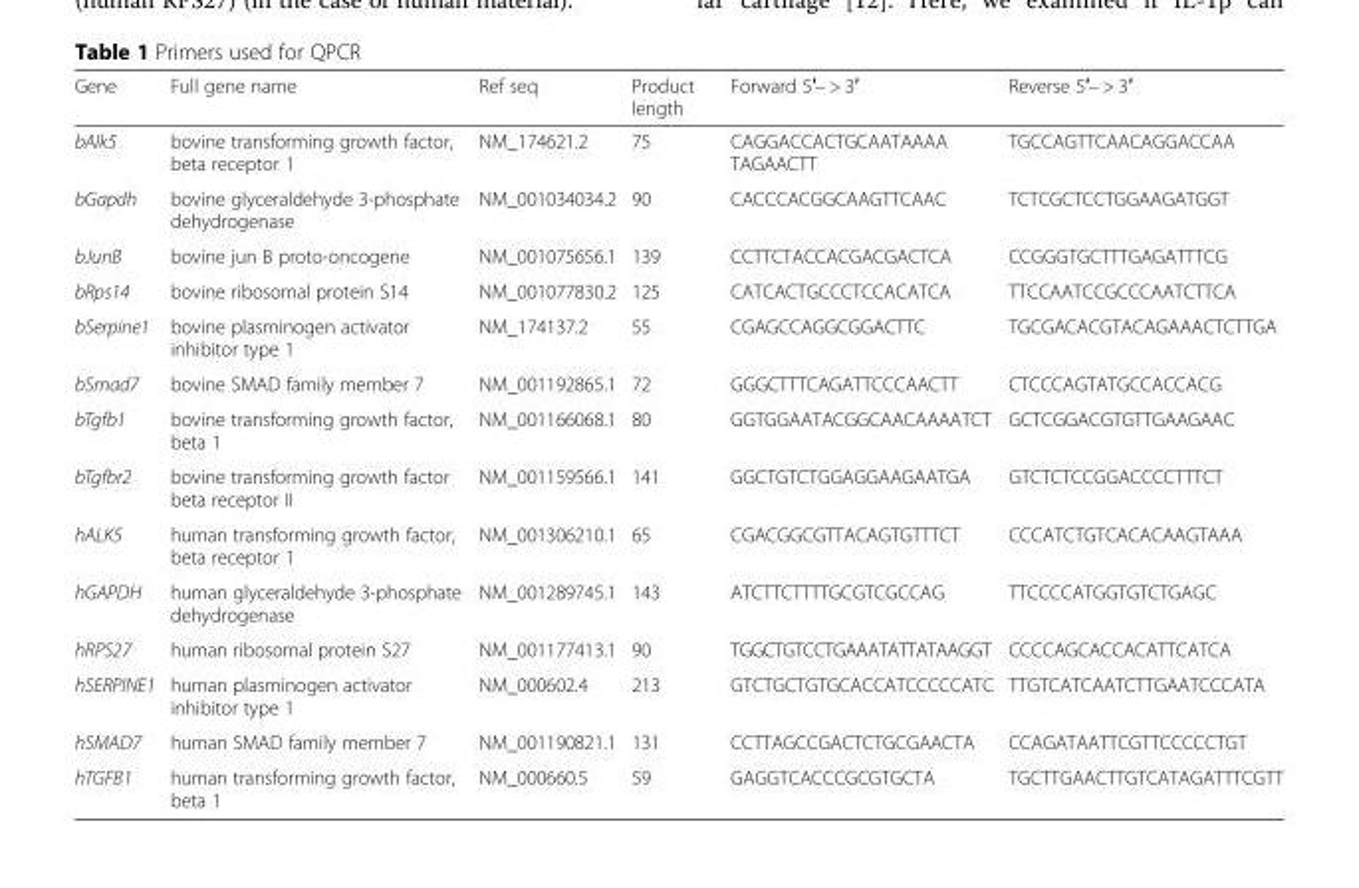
<table><thead><tr><td>Gene</td><td>Full gene name</td><td>Ref seq</td><td>Product length</td><td>Forward 5′– &gt; 3′</td><td>Reverse 5′– &gt; 3′</td></tr></thead><tbody><tr><td>bAlk5</td><td>bovine transforming growth factor, beta receptor 1</td><td>NM_174621.2</td><td>75</td><td>CAGGACCACTGCAATAAAA TAGAACTT</td><td>TGCCAGTTCAACAGGACCAA</td></tr><tr><td>bGapdh</td><td>bovine glyceraldehyde 3-phosphate dehydrogenase</td><td>NM_001034034.2</td><td>90</td><td>CACCCACGGCAAGTTCAAC</td><td>TCTCGCTCCTGGAAGATGGT</td></tr><tr><td>bJunB</td><td>bovine jun B proto-oncogene</td><td>NM_001075656.1</td><td>139</td><td>CCTTCTACCACGACGACTCA</td><td>CCGGGTGCTTTGAGATTTCG</td></tr><tr><td>bRps14</td><td>bovine ribosomal protein S14</td><td>NM_001077830.2</td><td>125</td><td>CATCACTGCCCTCCACATCA</td><td>TTCCAATCCGCCCAATCTTCA</td></tr><tr><td>bSerpine1</td><td>bovine plasminogen activator inhibitor type 1</td><td>NM_174137.2</td><td>55</td><td>CGAGCCAGGCGGACTTC</td><td>TGCGACACGTACAGAAACTCTTGA</td></tr><tr><td>bSmad7</td><td>bovine SMAD family member 7</td><td>NM_001192865.1</td><td>72</td><td>GGGCTTTCAGATTCCCAACTT</td><td>CTCCCAGTATGCCACCACG</td></tr><tr><td>bTgfb1</td><td>bovine transforming growth factor, beta 1</td><td>NM_001166068.1</td><td>80</td><td>GGTGGAATACGGCAACAAAATCT</td><td>GCTCGGACGTGTTGAAGAAC</td></tr><tr><td>bTgfbr2</td><td>bovine transforming growth factor beta receptor II</td><td>NM_001159566.1</td><td>141</td><td>GGCTGTCTGGAGGAAGAATGA</td><td>GTCTCTCCGGACCCCTTTCT</td></tr><tr><td>hALK5</td><td>human transforming growth factor, beta receptor 1</td><td>NM_001306210.1</td><td>65</td><td>CGACGGCGTTACAGTGTTTCT</td><td>CCCATCTGTCACACAAGTAAA</td></tr><tr><td>hGAPDH</td><td>human glyceraldehyde 3-phosphate dehydrogenase</td><td>NM_001289745.1</td><td>143</td><td>ATCTTCTTTTGCGTCGCCAG</td><td>TTCCCCATGGTGTCTGAGC</td></tr><tr><td>hRPS27</td><td>human ribosomal protein S27</td><td>NM_001177413.1</td><td>90</td><td>TGGCTGTCCTGAAATATTATAAGGT</td><td>CCCCAGCACCACATTCATCA</td></tr><tr><td>hSERPINE1</td><td>human plasminogen activator inhibitor type 1</td><td>NM_000602.4</td><td>213</td><td>GTCTGCTGTGCACCATCCCCCATC</td><td>TTGTCATCAATCTTGAATCCCATA</td></tr><tr><td>hSMAD7</td><td>human SMAD family member 7</td><td>NM_001190821.1</td><td>131</td><td>CCTTAGCCGACTCTGCGAACTA</td><td>CCAGATAATTCGTTCCCCCTGT</td></tr><tr><td>hTGFB1</td><td>human transforming growth factor, beta 1</td><td>NM_000660.5</td><td>59</td><td>GAGGTCACCCGCGTGCTA</td><td>TGCTTGAACTTGTCATAGATTTCGTT</td></tr></tbody></table>